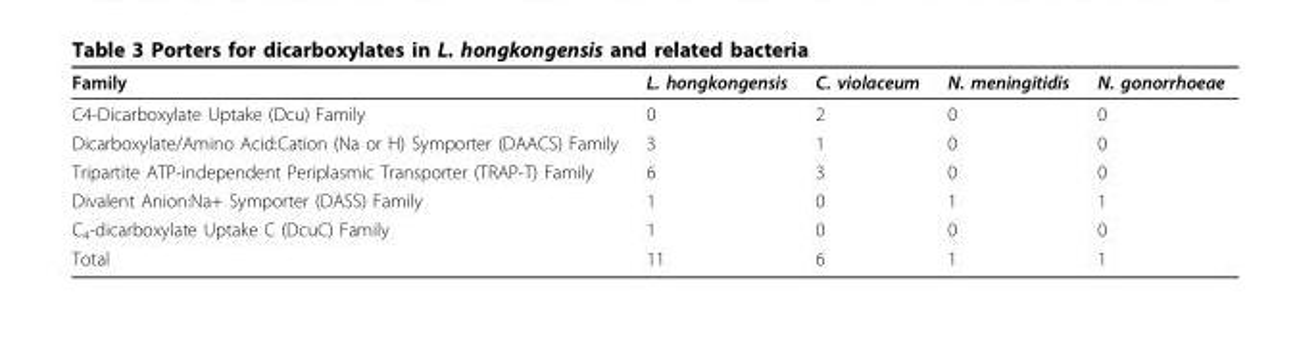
<table><thead><tr><td>Family</td><td>L. hongkongensis</td><td>C. violaceum</td><td>N. meningitidis</td><td>N. gonorrhoeae</td></tr></thead><tbody><tr><td>C4-Dicarboxylate Uptake (Dcu) Family</td><td>0</td><td>2</td><td>0</td><td>0</td></tr><tr><td>Dicarboxylate/Amino Acid:Cation (Na or H) Symporter (DAACS) Family</td><td>3</td><td>1</td><td>0</td><td>0</td></tr><tr><td>Tripartite ATP-independent Periplasmic Transporter (TRAP-T) Family</td><td>6</td><td>3</td><td>0</td><td>0</td></tr><tr><td>Divalent Anion:Na+ Symporter (DASS) Family</td><td>1</td><td>0</td><td>1</td><td>1</td></tr><tr><td>C<sub>4</sub>-dicarboxylate Uptake C (DcuC) Family</td><td>1</td><td>0</td><td>0</td><td>0</td></tr><tr><td>Total</td><td>11</td><td>6</td><td>1</td><td>1</td></tr></tbody></table>